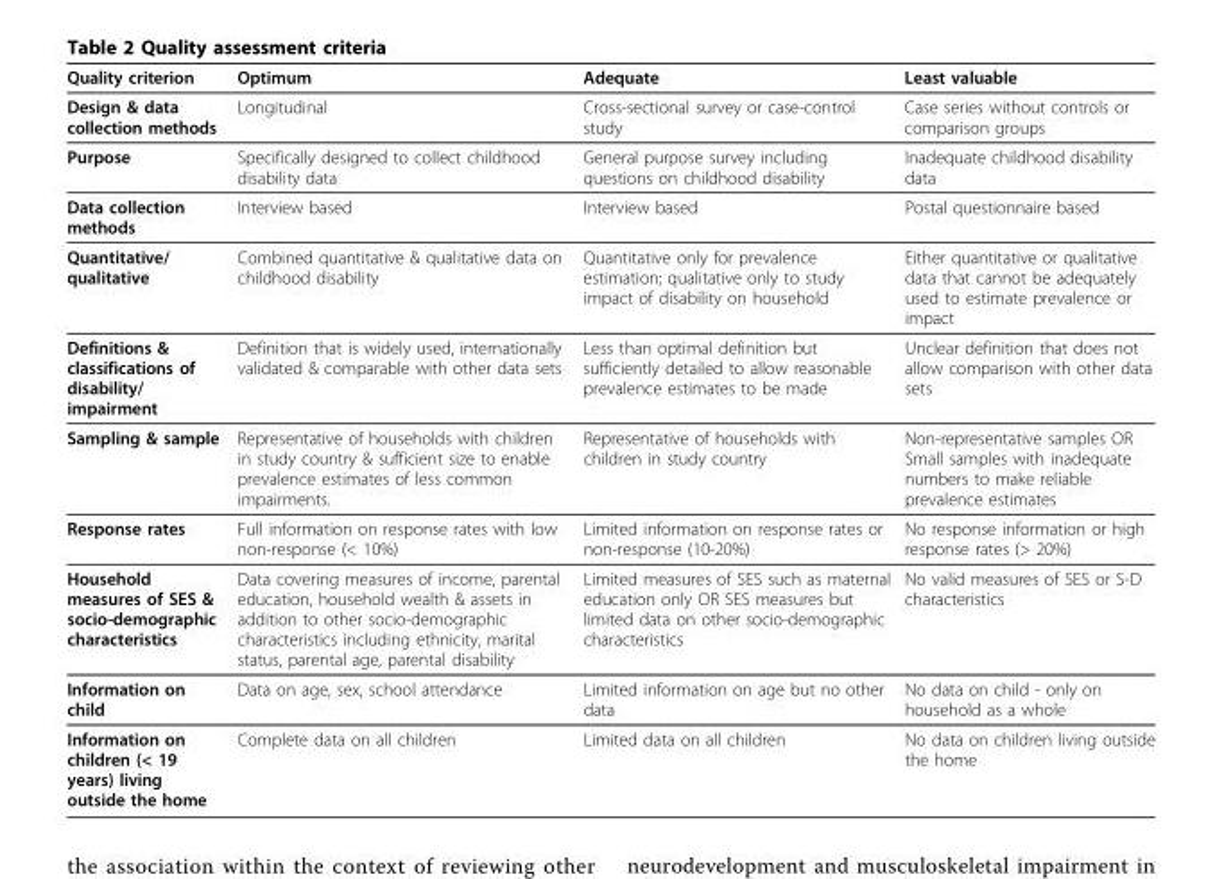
<table><thead><tr><td>Quality criterion</td><td>Optimum</td><td>Adequate</td><td>Least valuable</td></tr></thead><tbody><tr><td>Design &amp; data collection methods</td><td>Longitudinal</td><td>Cross-sectional survey or case-control study</td><td>Case series without controls or comparison groups</td></tr><tr><td>Purpose</td><td>Specifically designed to collect childhood disability data</td><td>General purpose survey including questions on childhood disability</td><td>Inadequate childhood disability data</td></tr><tr><td>Data collection methods</td><td>Interview based</td><td>Interview based</td><td>Postal questionnaire based</td></tr><tr><td>Quantitative/ qualitative</td><td>Combined quantitative &amp; qualitative data on childhood disability</td><td>Quantitative only for prevalence estimation; qualitative only to study impact of disability on household</td><td>Either quantitative or qualitative data that cannot be adequately used to estimate prevalence or impact</td></tr><tr><td>Definitions &amp; classifications of disability/ impairment</td><td>Definition that is widely used, internationally validated &amp; comparable with other data sets</td><td>Less than optimal definition but sufficiently detailed to allow reasonable prevalence estimates to be made</td><td>Unclear definition that does not allow comparison with other data sets</td></tr><tr><td>Sampling &amp; sample</td><td>Representative of households with children in study country &amp; sufficient size to enable prevalence estimates of less common impairments.</td><td>Representative of households with children in study country</td><td>Non-representative samples OR Small samples with inadequate numbers to make reliable prevalence estimates</td></tr><tr><td>Response rates</td><td>Full information on response rates with low non-response (&lt; 10%)</td><td>Limited information on response rates or non-response (10-20%)</td><td>No response information or high response rates (&gt; 20%)</td></tr><tr><td>Household measures of SES &amp; socio-demographic characteristics</td><td>Data covering measures of income, parental education, household wealth &amp; assets in addition to other socio-demographic characteristics including ethnicity, marital status, parental age, parental disability</td><td>Limited measures of SES such as maternal education only OR SES measures but limited data on other socio-demographic characteristics</td><td>No valid measures of SES or S-D characteristics</td></tr><tr><td>Information on child</td><td>Data on age, sex, school attendance</td><td>Limited information on age but no other data</td><td>No data on child - only on household as a whole</td></tr><tr><td>Information on children (&lt; 19 years) living outside the home</td><td>Complete data on all children</td><td>Limited data on all children</td><td>No data on children living outside the home</td></tr></tbody></table>